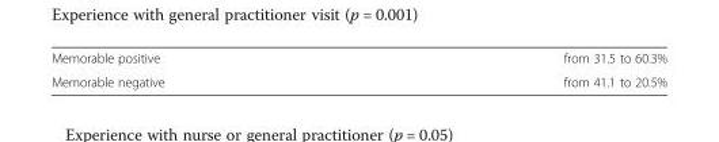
<table><tbody><tr><td>Memorable positive</td><td>from 31.5 to 60.3%</td></tr><tr><td>Memorable negative</td><td>from 41.1 to 20.5%</td></tr></tbody></table>